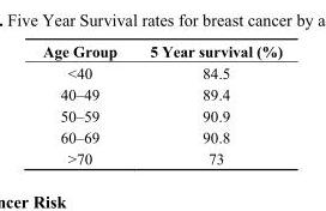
<table><thead><tr><td>Age Group</td><td>5 Year survival (%)</td></tr></thead><tbody><tr><td>&lt;40</td><td>84.5</td></tr><tr><td>40–49</td><td>89.4</td></tr><tr><td>50–59</td><td>90.9</td></tr><tr><td>60–69</td><td>90.8</td></tr><tr><td>&gt;70</td><td>73</td></tr></tbody></table>